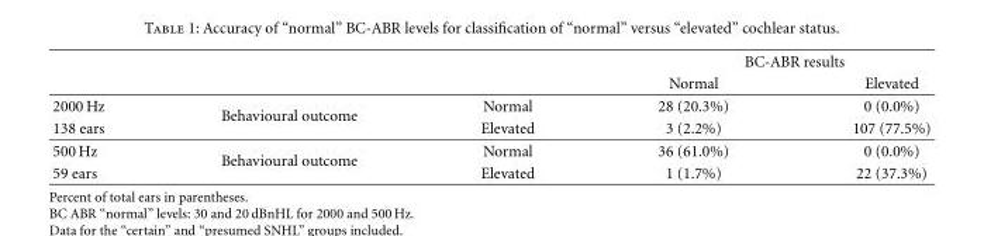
<table><thead><tr><td rowspan="2"></td><td rowspan="2"></td><td rowspan="2"></td><td colspan="2">BC-ABR results</td></tr><tr><td>Normal</td><td>Elevated</td></tr></thead><tbody><tr><td>2000 Hz</td><td rowspan="2">Behavioural outcome</td><td>Normal</td><td>28 (20.3%)</td><td>0 (0.0%)</td></tr><tr><td>138 ears</td><td>Elevated</td><td>3 (2.2%)</td><td>107 (77.5%)</td></tr><tr><td>500 Hz</td><td rowspan="2">Behavioural outcome</td><td>Normal</td><td>36 (61.0%)</td><td>0 (0.0%)</td></tr><tr><td>59 ears</td><td>Elevated</td><td>1 (1.7%)</td><td>22 (37.3%)</td></tr></tbody></table>